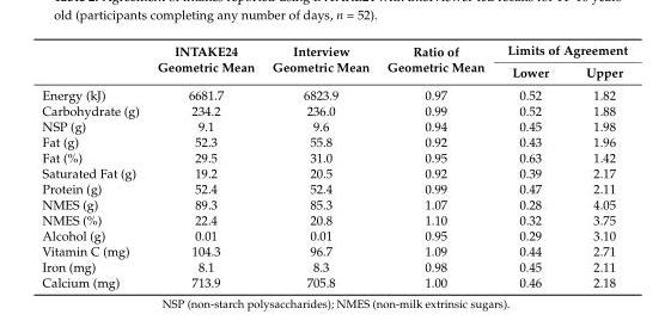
<table><thead><tr><td rowspan="2"></td><td rowspan="2">INTAKE24 Geometric Mean</td><td rowspan="2">Interview Geometric Mean</td><td rowspan="2">Ratio of Geometric Mean</td><td colspan="2">Limits of Agreement</td></tr><tr><td>Lower</td><td>Upper</td></tr></thead><tbody><tr><td>Energy (kJ)</td><td>6681.7</td><td>6823.9</td><td>0.97</td><td>0.52</td><td>1.82</td></tr><tr><td>Carbohydrate (g)</td><td>234.2</td><td>236.0</td><td>0.99</td><td>0.52</td><td>1.88</td></tr><tr><td>NSP (g)</td><td>9.1</td><td>9.6</td><td>0.94</td><td>0.45</td><td>1.98</td></tr><tr><td>Fat (g)</td><td>52.3</td><td>55.8</td><td>0.92</td><td>0.43</td><td>1.96</td></tr><tr><td>Fat (%)</td><td>29.5</td><td>31.0</td><td>0.95</td><td>0.63</td><td>1.42</td></tr><tr><td>Saturated Fat (g)</td><td>19.2</td><td>20.5</td><td>0.92</td><td>0.39</td><td>2.17</td></tr><tr><td>Protein (g)</td><td>52.4</td><td>52.4</td><td>0.99</td><td>0.47</td><td>2.11</td></tr><tr><td>NMES (g)</td><td>89.3</td><td>85.3</td><td>1.07</td><td>0.28</td><td>4.05</td></tr><tr><td>NMES (%)</td><td>22.4</td><td>20.8</td><td>1.10</td><td>0.32</td><td>3.75</td></tr><tr><td>Alcohol (g)</td><td>0.01</td><td>0.01</td><td>0.95</td><td>0.29</td><td>3.10</td></tr><tr><td>Vitamin C (mg)</td><td>104.3</td><td>96.7</td><td>1.09</td><td>0.44</td><td>2.71</td></tr><tr><td>Iron (mg)</td><td>8.1</td><td>8.3</td><td>0.98</td><td>0.45</td><td>2.11</td></tr><tr><td>Calcium (mg)</td><td>713.9</td><td>705.8</td><td>1.00</td><td>0.46</td><td>2.18</td></tr></tbody></table>